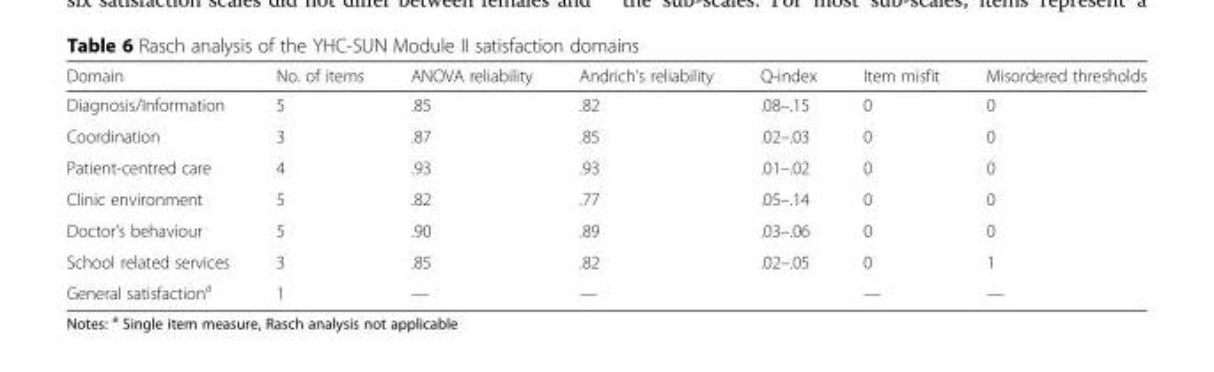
<table><thead><tr><td>Domain</td><td>No. of items</td><td>ANOVA reliability</td><td>Andrich’s reliability</td><td>Q-index</td><td>Item misfit</td><td>Misordered thresholds</td></tr></thead><tbody><tr><td>Diagnosis/Information</td><td>5</td><td>.85</td><td>.82</td><td>.08–.15</td><td>0</td><td>0</td></tr><tr><td>Coordination</td><td>3</td><td>.87</td><td>.85</td><td>.02–.03</td><td>0</td><td>0</td></tr><tr><td>Patient-centred care</td><td>4</td><td>.93</td><td>.93</td><td>.01–.02</td><td>0</td><td>0</td></tr><tr><td>Clinic environment</td><td>5</td><td>.82</td><td>.77</td><td>.05–.14</td><td>0</td><td>0</td></tr><tr><td>Doctor’s behaviour</td><td>5</td><td>.90</td><td>.89</td><td>.03–.06</td><td>0</td><td>0</td></tr><tr><td>School related services</td><td>3</td><td>.85</td><td>.82</td><td>.02–.05</td><td>0</td><td>1</td></tr><tr><td>General satisfaction<sup>a</sup></td><td>1</td><td>—</td><td>—</td><td></td><td>—</td><td>—</td></tr></tbody></table>